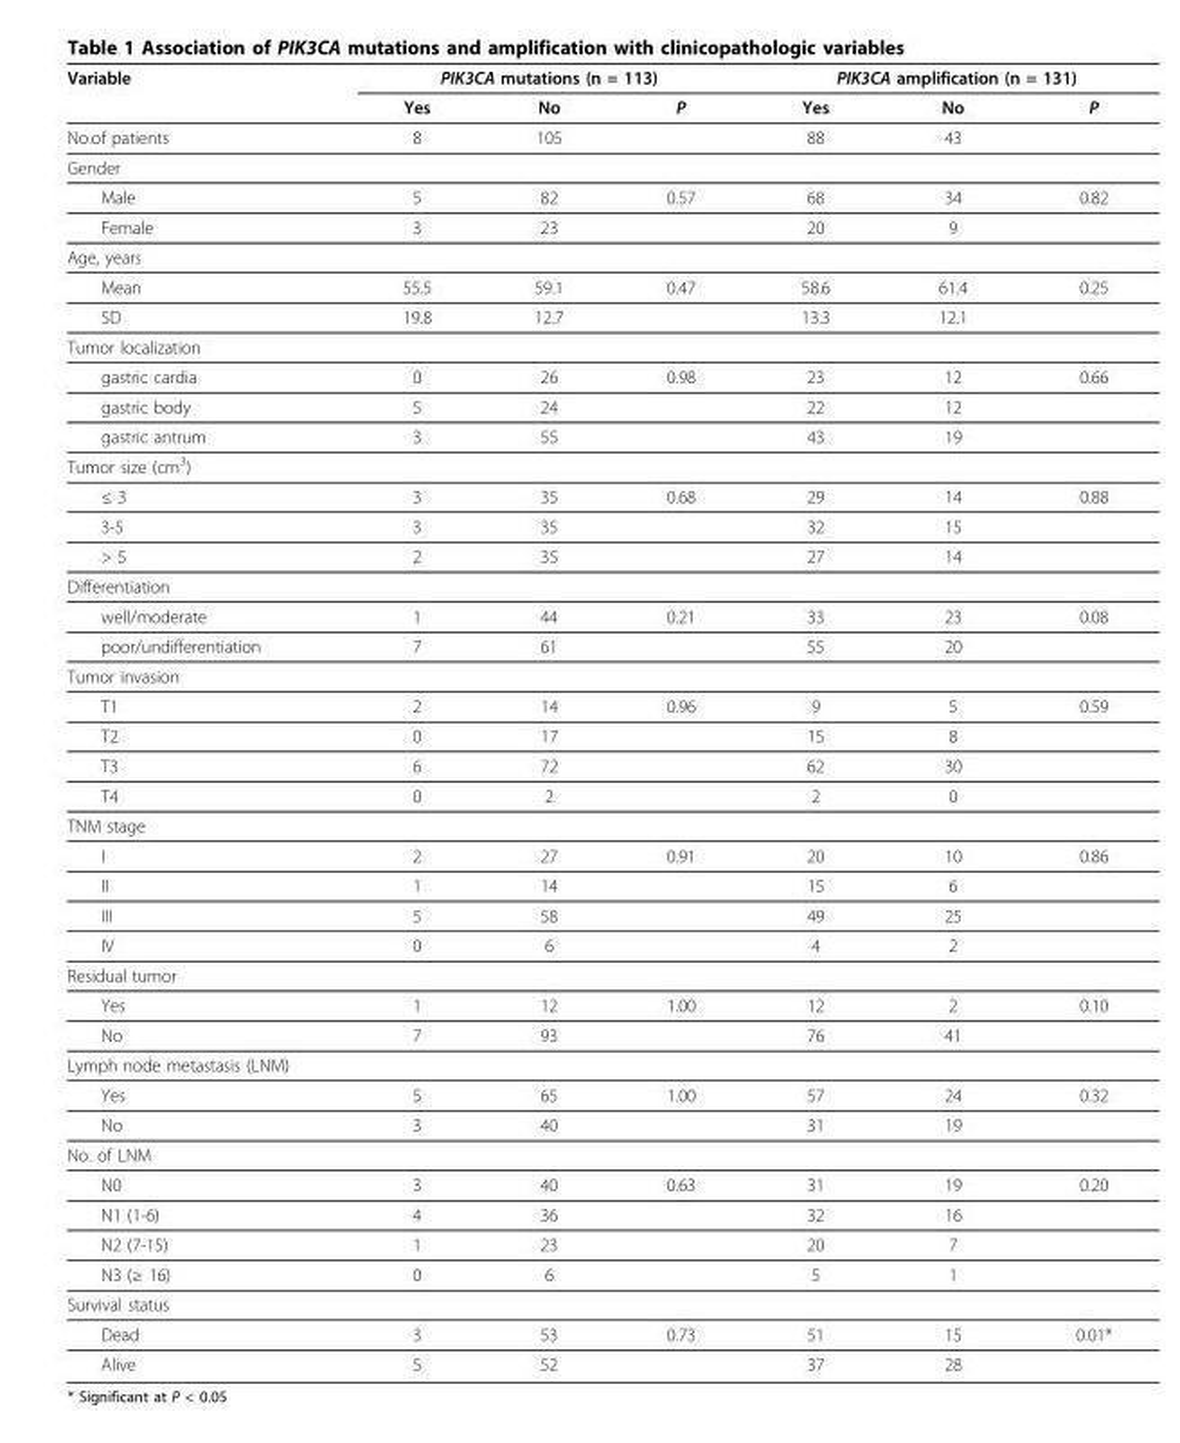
<table><thead><tr><td rowspan="2">Variable</td><td colspan="3">PIK3CA mutations (n = 113)</td><td colspan="3">PIK3CA amplification (n = 131)</td></tr><tr><td>Yes</td><td>No</td><td>P</td><td>Yes</td><td>No</td><td>P</td></tr></thead><tbody><tr><td>No.of patients</td><td>8</td><td>105</td><td></td><td>88</td><td>43</td><td></td></tr><tr><td colspan="7">Gender</td></tr><tr><td>Male</td><td>5</td><td>82</td><td>0.57</td><td>68</td><td>34</td><td>0.82</td></tr><tr><td>Female</td><td>3</td><td>23</td><td></td><td>20</td><td>9</td><td></td></tr><tr><td colspan="7">Age, years</td></tr><tr><td>Mean</td><td>55.5</td><td>59.1</td><td>0.47</td><td>58.6</td><td>61.4</td><td>0.25</td></tr><tr><td>SD</td><td>19.8</td><td>12.7</td><td></td><td>13.3</td><td>12.1</td><td></td></tr><tr><td colspan="7">Tumor localization</td></tr><tr><td>gastric cardia</td><td>0</td><td>26</td><td>0.98</td><td>23</td><td>12</td><td>0.66</td></tr><tr><td>gastric body</td><td>5</td><td>24</td><td></td><td>22</td><td>12</td><td></td></tr><tr><td>gastric antrum</td><td>3</td><td>55</td><td></td><td>43</td><td>19</td><td></td></tr><tr><td colspan="7">Tumor size (cm<sup>3</sup>)</td></tr><tr><td>≤ 3</td><td>3</td><td>35</td><td>0.68</td><td>29</td><td>14</td><td>0.88</td></tr><tr><td>3-5</td><td>3</td><td>35</td><td></td><td>32</td><td>15</td><td></td></tr><tr><td>&gt; 5</td><td>2</td><td>35</td><td></td><td>27</td><td>14</td><td></td></tr><tr><td colspan="7">Differentiation</td></tr><tr><td>well/moderate</td><td>1</td><td>44</td><td>0.21</td><td>33</td><td>23</td><td>0.08</td></tr><tr><td>poor/undifferentiation</td><td>7</td><td>61</td><td></td><td>55</td><td>20</td><td></td></tr><tr><td colspan="7">Tumor invasion</td></tr><tr><td>T1</td><td>2</td><td>14</td><td>0.96</td><td>9</td><td>5</td><td>0.59</td></tr><tr><td>T2</td><td>0</td><td>17</td><td></td><td>15</td><td>8</td><td></td></tr><tr><td>T3</td><td>6</td><td>72</td><td></td><td>62</td><td>30</td><td></td></tr><tr><td>T4</td><td>0</td><td>2</td><td></td><td>2</td><td>0</td><td></td></tr><tr><td colspan="7">TNM stage</td></tr><tr><td>I</td><td>2</td><td>27</td><td>0.91</td><td>20</td><td>10</td><td>0.86</td></tr><tr><td>II</td><td>1</td><td>14</td><td></td><td>15</td><td>6</td><td></td></tr><tr><td>III</td><td>5</td><td>58</td><td></td><td>49</td><td>25</td><td></td></tr><tr><td>IV</td><td>0</td><td>6</td><td></td><td>4</td><td>2</td><td></td></tr><tr><td colspan="7">Residual tumor</td></tr><tr><td>Yes</td><td>1</td><td>12</td><td>1.00</td><td>12</td><td>2</td><td>0.10</td></tr><tr><td>No</td><td>7</td><td>93</td><td></td><td>76</td><td>41</td><td></td></tr><tr><td colspan="7">Lymph node metastasis (LNM)</td></tr><tr><td>Yes</td><td>5</td><td>65</td><td>1.00</td><td>57</td><td>24</td><td>0.32</td></tr><tr><td>No</td><td>3</td><td>40</td><td></td><td>31</td><td>19</td><td></td></tr><tr><td colspan="7">No. of LNM</td></tr><tr><td>N0</td><td>3</td><td>40</td><td>0.63</td><td>31</td><td>19</td><td>0.20</td></tr><tr><td>N1 (1-6)</td><td>4</td><td>36</td><td></td><td>32</td><td>16</td><td></td></tr><tr><td>N2 (7-15)</td><td>1</td><td>23</td><td></td><td>20</td><td>7</td><td></td></tr><tr><td>N3 (≥ 16)</td><td>0</td><td>6</td><td></td><td>5</td><td>1</td><td></td></tr><tr><td colspan="7">Survival status</td></tr><tr><td>Dead</td><td>3</td><td>53</td><td>0.73</td><td>51</td><td>15</td><td>0.01*</td></tr><tr><td>Alive</td><td>5</td><td>52</td><td></td><td>37</td><td>28</td><td></td></tr></tbody></table>